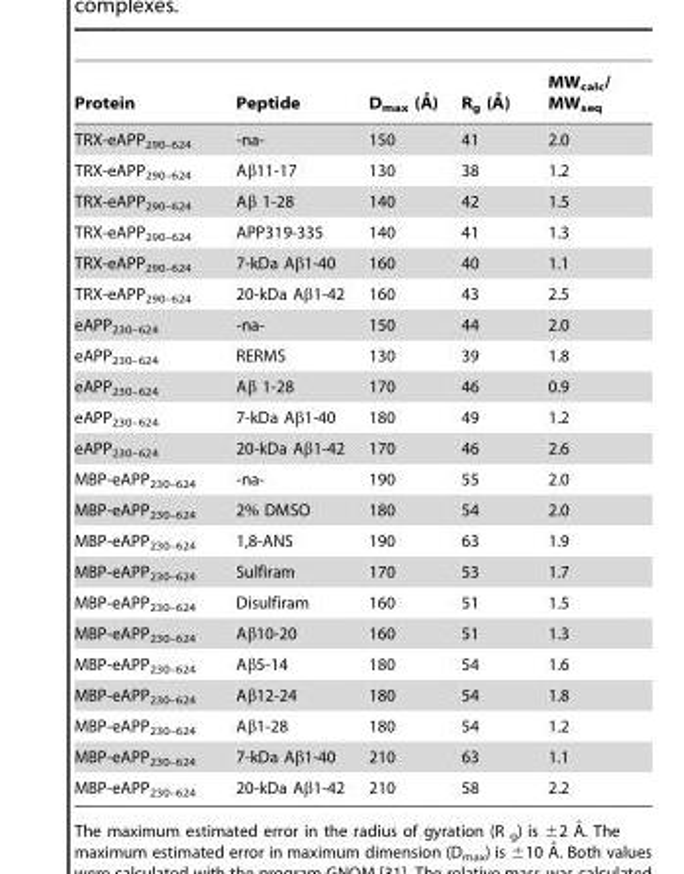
<table><thead><tr><td>Protein</td><td>Peptide</td><td>Dmax (A˚)</td><td>Rg (A˚)</td><td>MW<sub>calc</sub>/ MW<sub>seq</sub></td></tr></thead><tbody><tr><td>TRX-eAPP<sub>290–624</sub></td><td>-na-</td><td>150</td><td>41</td><td>2.0</td></tr><tr><td>TRX-eAPP<sub>290–624</sub></td><td>Aβ11-17</td><td>130</td><td>38</td><td>1.2</td></tr><tr><td>TRX-eAPP<sub>290–624</sub></td><td>Aβ 1-28</td><td>140</td><td>42</td><td>1.5</td></tr><tr><td>TRX-eAPP<sub>290–624</sub></td><td>APP319-335</td><td>140</td><td>41</td><td>1.3</td></tr><tr><td>TRX-eAPP<sub>290–624</sub></td><td>7-kDa Aβ1-40</td><td>160</td><td>40</td><td>1.1</td></tr><tr><td>TRX-eAPP<sub>290–624</sub></td><td>20-kDa Aβ1-42</td><td>160</td><td>43</td><td>2.5</td></tr><tr><td>eAPP<sub>230–624</sub></td><td>-na-</td><td>150</td><td>44</td><td>2.0</td></tr><tr><td>eAPP<sub>230–624</sub></td><td>RERMS</td><td>130</td><td>39</td><td>1.8</td></tr><tr><td>eAPP<sub>230–624</sub></td><td>Aβ 1-28</td><td>170</td><td>46</td><td>0.9</td></tr><tr><td>eAPP<sub>230–624</sub></td><td>7-kDa Aβ1-40</td><td>180</td><td>49</td><td>1.2</td></tr><tr><td>eAPP<sub>230–624</sub></td><td>20-kDa Aβ1-42</td><td>170</td><td>46</td><td>2.6</td></tr><tr><td>MBP-eAPP<sub>230–624</sub></td><td>-na-</td><td>190</td><td>55</td><td>2.0</td></tr><tr><td>MBP-eAPP<sub>230–624</sub></td><td>2% DMSO</td><td>180</td><td>54</td><td>2.0</td></tr><tr><td>MBP-eAPP<sub>230–624</sub></td><td>1,8-ANS</td><td>190</td><td>63</td><td>1.9</td></tr><tr><td>MBP-eAPP<sub>230–624</sub></td><td>Sulfiram</td><td>170</td><td>53</td><td>1.7</td></tr><tr><td>MBP-eAPP<sub>230–624</sub></td><td>Disulfiram</td><td>160</td><td>51</td><td>1.5</td></tr><tr><td>MBP-eAPP<sub>230–624</sub></td><td>Aβ10-20</td><td>160</td><td>51</td><td>1.3</td></tr><tr><td>MBP-eAPP<sub>230–624</sub></td><td>Aβ5-14</td><td>180</td><td>54</td><td>1.6</td></tr><tr><td>MBP-eAPP<sub>230–624</sub></td><td>Aβ12-24</td><td>180</td><td>54</td><td>1.8</td></tr><tr><td>MBP-eAPP<sub>230–624</sub></td><td>Aβ1-28</td><td>180</td><td>54</td><td>1.2</td></tr><tr><td>MBP-eAPP<sub>230–624</sub></td><td>7-kDa Aβ1-40</td><td>210</td><td>63</td><td>1.1</td></tr><tr><td>MBP-eAPP<sub>230–624</sub></td><td>20-kDa Aβ1-42</td><td>210</td><td>58</td><td>2.2</td></tr></tbody></table>